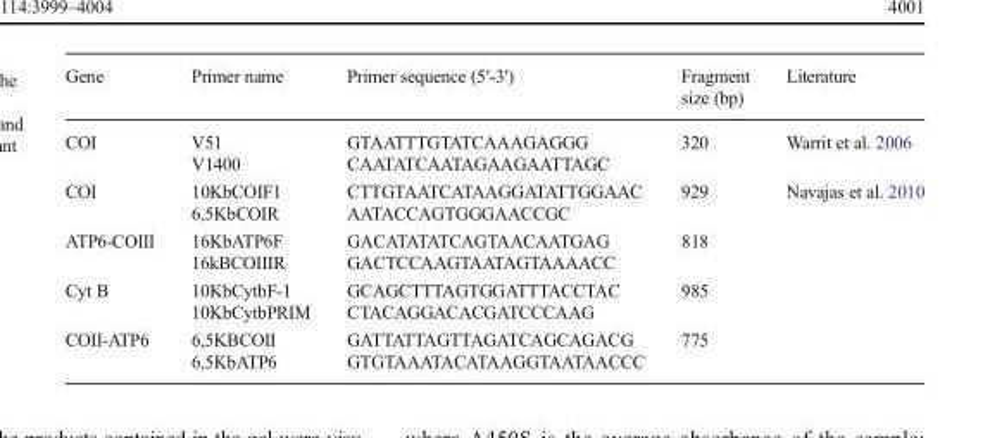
<table><thead><tr><td>Gene</td><td>Primer name</td><td>Primer sequence (5′-3′)</td><td>Fragment size (bp)</td><td>Literature</td></tr></thead><tbody><tr><td rowspan="2">COI</td><td>V51</td><td>GTAATTTGTATCAAAGAGGG</td><td rowspan="2">320</td><td rowspan="2">Warrit et al. 2006</td></tr><tr><td>V1400</td><td>CAATATCAATAGAAGAATTAGC</td></tr><tr><td rowspan="2">COI</td><td>10KbCOIF1</td><td>CTTGTAATCATAAGGATATTGGAAC</td><td rowspan="2">929</td><td rowspan="8">Navajas et al. 2010</td></tr><tr><td>6,5KbCOIR</td><td>AATACCAGTGGGAACCGC</td></tr><tr><td rowspan="2">ATP6-COIII</td><td>16KbATP6F</td><td>GACATATATCAGTAACAATGAG</td><td rowspan="2">818</td></tr><tr><td>16kBCOIIIR</td><td>GACTCCAAGTAATAGTAAAACC</td></tr><tr><td rowspan="2">Cyt B</td><td>10KbCytbF-1</td><td>GCAGCTTTAGTGGATTTACCTAC</td><td rowspan="2">985</td></tr><tr><td>10KbCytbPRIM</td><td>CTACAGGACACGATCCCAAG</td></tr><tr><td rowspan="2">COII-ATP6</td><td>6,5KBCOII</td><td>GATTATTAGTTAGATCAGCAGACG</td><td rowspan="2">775</td></tr><tr><td>6,5KbATP6</td><td>GTGTAAATACATAAGGTAATAACCC</td></tr></tbody></table>